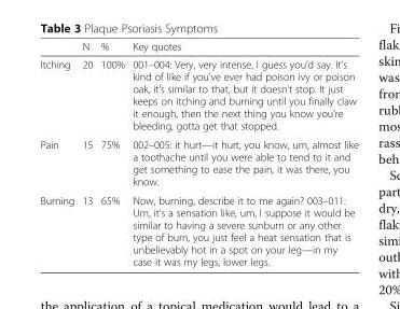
<table><thead><tr><td></td><td>N</td><td>%</td><td>Key quotes</td></tr></thead><tbody><tr><td>Itching</td><td>20</td><td>100%</td><td>001–004: Very, very intense, I guess you’d say. It’s kind of like if you’ve ever had poison ivy or poison oak, it’s similar to that, but it doesn’t stop. It just keeps on itching and burning until you finally claw it enough, then the next thing you know you’re bleeding, gotta get that stopped.</td></tr><tr><td>Pain</td><td>15</td><td>75%</td><td>002–005: it hurt—it hurt, you know, um, almost like a toothache until you were able to tend to it and get something to ease the pain, it was there, you know.</td></tr><tr><td>Burning</td><td>13</td><td>65%</td><td>Now, burning, describe it to me again? 003–011: Um, it’s a sensation like, um, I suppose it would be similar to having a severe sunburn or any other type of burn, you just feel a heat sensation that is unbelievably hot in a spot on your leg—in my case it was my legs, lower legs.</td></tr></tbody></table>